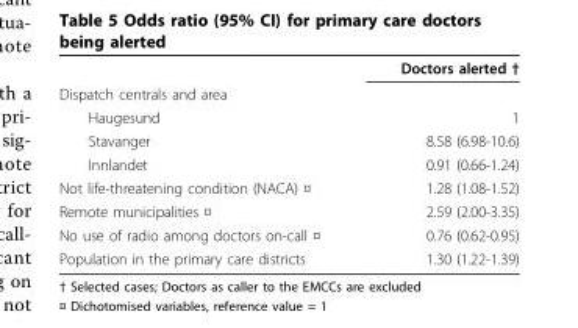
<table><thead><tr><td></td><td>Doctors alerted †</td></tr></thead><tbody><tr><td colspan="2">Dispatch centrals and area</td></tr><tr><td>Haugesund</td><td>1</td></tr><tr><td>Stavanger</td><td>8.58 (6.98-10.6)</td></tr><tr><td>Innlandet</td><td>0.91 (0.66-1.24)</td></tr><tr><td>Not life-threatening condition (NACA) ¤</td><td>1.28 (1.08-1.52)</td></tr><tr><td>Remote municipalities ¤</td><td>2.59 (2.00-3.35)</td></tr><tr><td>No use of radio among doctors on-call ¤</td><td>0.76 (0.62-0.95)</td></tr><tr><td>Population in the primary care districts</td><td>1.30 (1.22-1.39)</td></tr></tbody></table>